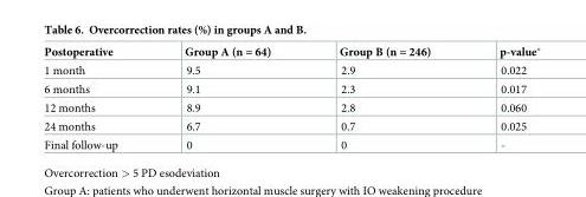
<table><thead><tr><td>Postoperative</td><td>Group A (n = 64)</td><td>Group B (n = 246)</td><td>p-value*</td></tr></thead><tbody><tr><td>1 month</td><td>9.5</td><td>2.9</td><td>0.022</td></tr><tr><td>6 months</td><td>9.1</td><td>2.3</td><td>0.017</td></tr><tr><td>12 months</td><td>8.9</td><td>2.8</td><td>0.060</td></tr><tr><td>24 months</td><td>6.7</td><td>0.7</td><td>0.025</td></tr><tr><td>Final follow-up</td><td>0</td><td>0</td><td>-</td></tr></tbody></table>